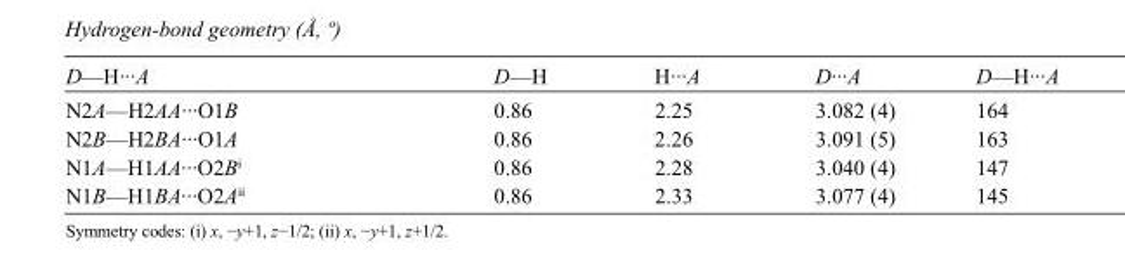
<table><tbody><tr><td>D—H···A</td><td>D—H</td><td>H···A</td><td>D···A</td><td>D—H···A</td></tr><tr><td>N2A—H2AA···O1B</td><td>0.86</td><td>2.25</td><td>3.082 (4)</td><td>164</td></tr><tr><td>N2B—H2BA···O1A</td><td>0.86</td><td>2.26</td><td>3.091 (5)</td><td>163</td></tr><tr><td>N1A—H1AA···O2B<sup>i</sup></td><td>0.86</td><td>2.28</td><td>3.040 (4)</td><td>147</td></tr><tr><td>N1B—H1BA···O2A<sup>ii</sup></td><td>0.86</td><td>2.33</td><td>3.077 (4)</td><td>145</td></tr></tbody></table>